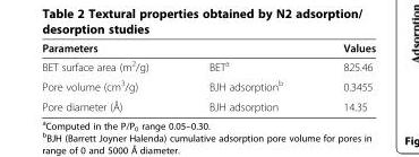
<table><thead><tr><td>Parameters</td><td></td><td>Values</td></tr></thead><tbody><tr><td>BET surface area (m<sup>2</sup>/g)</td><td>BET<sup>a</sup></td><td>825.46</td></tr><tr><td>Pore volume (cm<sup>3</sup>/g)</td><td>BJH adsorption<sup>b</sup></td><td>0.3455</td></tr><tr><td>Pore diameter (Å)</td><td>BJH adsorption</td><td>14.35</td></tr></tbody></table>